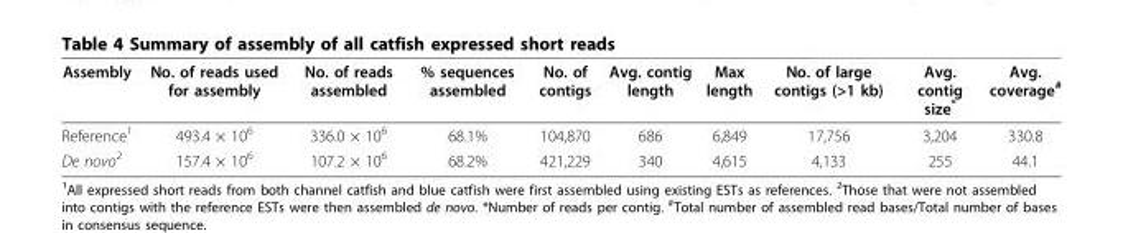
<table><thead><tr><td>Assembly</td><td>No. of reads used for assembly</td><td>No. of reads assembled</td><td>% sequences assembled</td><td>No. of contigs</td><td>Avg. contig length</td><td>Max length</td><td>No. of large contigs (&gt;1 kb)</td><td>Avg. contig size*</td><td>Avg. coverage<sup>#</sup></td></tr></thead><tbody><tr><td>Reference<sup>1</sup></td><td>493.4 × 10<sup>6</sup></td><td>336.0 × 10<sup>6</sup></td><td>68.1%</td><td>104,870</td><td>686</td><td>6,849</td><td>17,756</td><td>3,204</td><td>330.8</td></tr><tr><td>De novo<sup>2</sup></td><td>157.4 × 10<sup>6</sup></td><td>107.2 × 10<sup>6</sup></td><td>68.2%</td><td>421,229</td><td>340</td><td>4,615</td><td>4,133</td><td>255</td><td>44.1</td></tr></tbody></table>